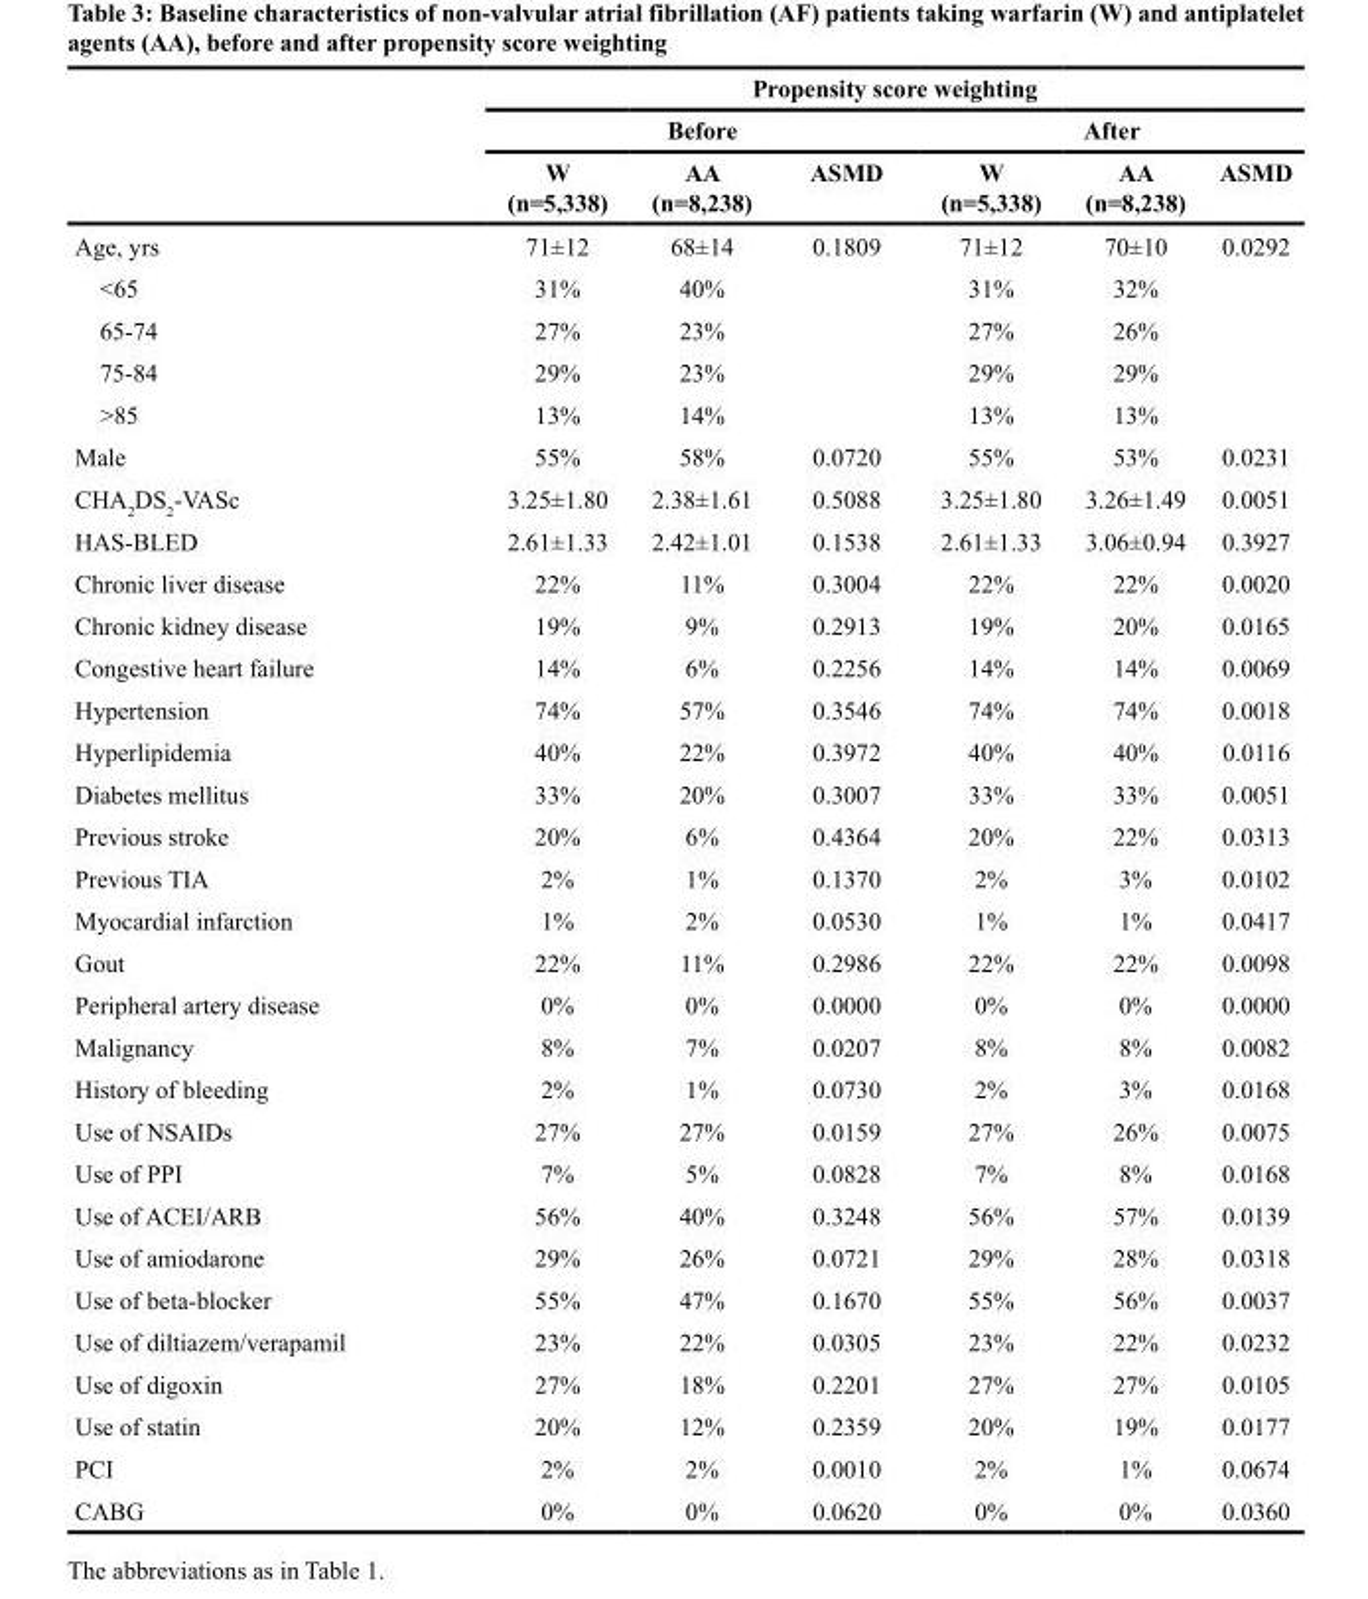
<table><thead><tr><td rowspan="3"></td><td colspan="6">Propensity score weighting</td></tr><tr><td colspan="3">Before</td><td colspan="3">After</td></tr><tr><td>W (n=5,338)</td><td>AA (n=8,238)</td><td>ASMD</td><td>W (n=5,338)</td><td>AA (n=8,238)</td><td>ASMD</td></tr></thead><tbody><tr><td>Age, yrs</td><td>71±12</td><td>68±14</td><td>0.1809</td><td>71±12</td><td>70±10</td><td>0.0292</td></tr><tr><td>&lt;65</td><td>31%</td><td>40%</td><td></td><td>31%</td><td>32%</td><td></td></tr><tr><td>65-74</td><td>27%</td><td>23%</td><td></td><td>27%</td><td>26%</td><td></td></tr><tr><td>75-84</td><td>29%</td><td>23%</td><td></td><td>29%</td><td>29%</td><td></td></tr><tr><td>&gt;85</td><td>13%</td><td>14%</td><td></td><td>13%</td><td>13%</td><td></td></tr><tr><td>Male</td><td>55%</td><td>58%</td><td>0.0720</td><td>55%</td><td>53%</td><td>0.0231</td></tr><tr><td>CHA<sub>2</sub>DS<sub>2</sub>-VASc</td><td>3.25±1.80</td><td>2.38±1.61</td><td>0.5088</td><td>3.25±1.80</td><td>3.26±1.49</td><td>0.0051</td></tr><tr><td>HAS-BLED</td><td>2.61±1.33</td><td>2.42±1.01</td><td>0.1538</td><td>2.61±1.33</td><td>3.06±0.94</td><td>0.3927</td></tr><tr><td>Chronic liver disease</td><td>22%</td><td>11%</td><td>0.3004</td><td>22%</td><td>22%</td><td>0.0020</td></tr><tr><td>Chronic kidney disease</td><td>19%</td><td>9%</td><td>0.2913</td><td>19%</td><td>20%</td><td>0.0165</td></tr><tr><td>Congestive heart failure</td><td>14%</td><td>6%</td><td>0.2256</td><td>14%</td><td>14%</td><td>0.0069</td></tr><tr><td>Hypertension</td><td>74%</td><td>57%</td><td>0.3546</td><td>74%</td><td>74%</td><td>0.0018</td></tr><tr><td>Hyperlipidemia</td><td>40%</td><td>22%</td><td>0.3972</td><td>40%</td><td>40%</td><td>0.0116</td></tr><tr><td>Diabetes mellitus</td><td>33%</td><td>20%</td><td>0.3007</td><td>33%</td><td>33%</td><td>0.0051</td></tr><tr><td>Previous stroke</td><td>20%</td><td>6%</td><td>0.4364</td><td>20%</td><td>22%</td><td>0.0313</td></tr><tr><td>Previous TIA</td><td>2%</td><td>1%</td><td>0.1370</td><td>2%</td><td>3%</td><td>0.0102</td></tr><tr><td>Myocardial infarction</td><td>1%</td><td>2%</td><td>0.0530</td><td>1%</td><td>1%</td><td>0.0417</td></tr><tr><td>Gout</td><td>22%</td><td>11%</td><td>0.2986</td><td>22%</td><td>22%</td><td>0.0098</td></tr><tr><td>Peripheral artery disease</td><td>0%</td><td>0%</td><td>0.0000</td><td>0%</td><td>0%</td><td>0.0000</td></tr><tr><td>Malignancy</td><td>8%</td><td>7%</td><td>0.0207</td><td>8%</td><td>8%</td><td>0.0082</td></tr><tr><td>History of bleeding</td><td>2%</td><td>1%</td><td>0.0730</td><td>2%</td><td>3%</td><td>0.0168</td></tr><tr><td>Use of NSAIDs</td><td>27%</td><td>27%</td><td>0.0159</td><td>27%</td><td>26%</td><td>0.0075</td></tr><tr><td>Use of PPI</td><td>7%</td><td>5%</td><td>0.0828</td><td>7%</td><td>8%</td><td>0.0168</td></tr><tr><td>Use of ACEI/ARB</td><td>56%</td><td>40%</td><td>0.3248</td><td>56%</td><td>57%</td><td>0.0139</td></tr><tr><td>Use of amiodarone</td><td>29%</td><td>26%</td><td>0.0721</td><td>29%</td><td>28%</td><td>0.0318</td></tr><tr><td>Use of beta-blocker</td><td>55%</td><td>47%</td><td>0.1670</td><td>55%</td><td>56%</td><td>0.0037</td></tr><tr><td>Use of diltiazem/verapamil</td><td>23%</td><td>22%</td><td>0.0305</td><td>23%</td><td>22%</td><td>0.0232</td></tr><tr><td>Use of digoxin</td><td>27%</td><td>18%</td><td>0.2201</td><td>27%</td><td>27%</td><td>0.0105</td></tr><tr><td>Use of statin</td><td>20%</td><td>12%</td><td>0.2359</td><td>20%</td><td>19%</td><td>0.0177</td></tr><tr><td>PCI</td><td>2%</td><td>2%</td><td>0.0010</td><td>2%</td><td>1%</td><td>0.0674</td></tr><tr><td>CABG</td><td>0%</td><td>0%</td><td>0.0620</td><td>0%</td><td>0%</td><td>0.0360</td></tr></tbody></table>